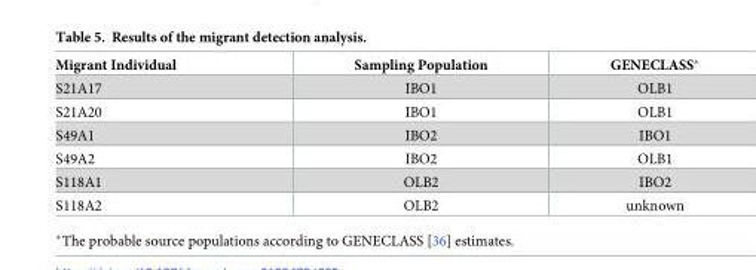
<table><thead><tr><td>Migrant Individual</td><td>Sampling Population</td><td>GENECLASS*</td></tr></thead><tbody><tr><td>S21A17</td><td>IBO1</td><td>OLB1</td></tr><tr><td>S21A20</td><td>IBO1</td><td>OLB1</td></tr><tr><td>S49A1</td><td>IBO2</td><td>IBO1</td></tr><tr><td>S49A2</td><td>IBO2</td><td>OLB1</td></tr><tr><td>S118A1</td><td>OLB2</td><td>IBO2</td></tr><tr><td>S118A2</td><td>OLB2</td><td>unknown</td></tr></tbody></table>